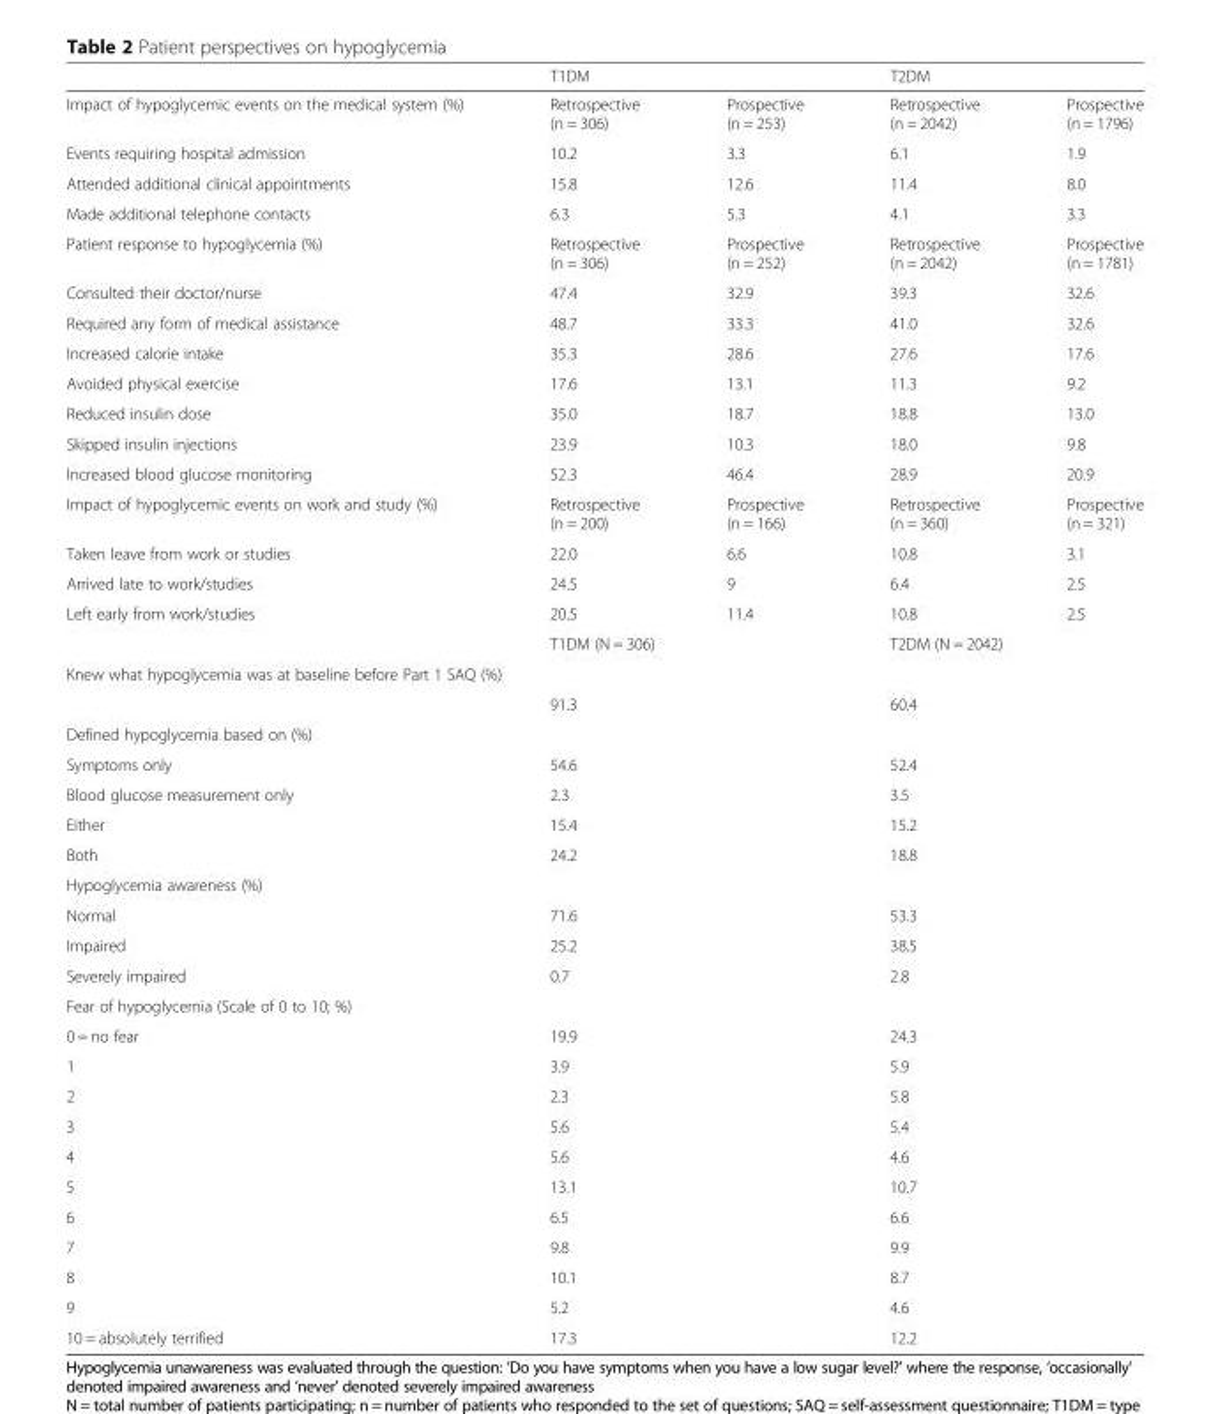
<table><thead><tr><td rowspan="2">Impact of hypoglycemic events on the medical system (%)</td><td colspan="2">T1DM</td><td colspan="2">T2DM</td></tr><tr><td>Retrospective (n = 306)</td><td>Prospective (n = 253)</td><td>Retrospective (n = 2042)</td><td>Prospective (n = 1796)</td></tr></thead><tbody><tr><td>Events requiring hospital admission</td><td>10.2</td><td>3.3</td><td>6.1</td><td>1.9</td></tr><tr><td>Attended additional clinical appointments</td><td>15.8</td><td>12.6</td><td>11.4</td><td>8.0</td></tr><tr><td>Made additional telephone contacts</td><td>6.3</td><td>5.3</td><td>4.1</td><td>3.3</td></tr><tr><td>Patient response to hypoglycemia (%)</td><td>Retrospective (n = 306)</td><td>Prospective (n = 252)</td><td>Retrospective (n = 2042)</td><td>Prospective (n = 1781)</td></tr><tr><td>Consulted their doctor/nurse</td><td>47.4</td><td>32.9</td><td>39.3</td><td>32.6</td></tr><tr><td>Required any form of medical assistance</td><td>48.7</td><td>33.3</td><td>41.0</td><td>32.6</td></tr><tr><td>Increased calorie intake</td><td>35.3</td><td>28.6</td><td>27.6</td><td>17.6</td></tr><tr><td>Avoided physical exercise</td><td>17.6</td><td>13.1</td><td>11.3</td><td>9.2</td></tr><tr><td>Reduced insulin dose</td><td>35.0</td><td>18.7</td><td>18.8</td><td>13.0</td></tr><tr><td>Skipped insulin injections</td><td>23.9</td><td>10.3</td><td>18.0</td><td>9.8</td></tr><tr><td>Increased blood glucose monitoring</td><td>52.3</td><td>46.4</td><td>28.9</td><td>20.9</td></tr><tr><td>Impact of hypoglycemic events on work and study (%)</td><td>Retrospective (n = 200)</td><td>Prospective (n = 166)</td><td>Retrospective (n = 360)</td><td>Prospective (n = 321)</td></tr><tr><td>Taken leave from work or studies</td><td>22.0</td><td>6.6</td><td>10.8</td><td>3.1</td></tr><tr><td>Arrived late to work/studies</td><td>24.5</td><td>9</td><td>6.4</td><td>2.5</td></tr><tr><td rowspan="2">Left early from work/studies</td><td>20.5</td><td>11.4</td><td>10.8</td><td>2.5</td></tr><tr><td colspan="2">T1DM (N = 306)</td><td colspan="2">T2DM (N = 2042)</td></tr><tr><td colspan="5">Knew what hypoglycemia was at baseline before Part 1 SAQ (%)</td></tr><tr><td></td><td colspan="2">91.3</td><td colspan="2">60.4</td></tr><tr><td colspan="5">Defined hypoglycemia based on (%)</td></tr><tr><td>Symptoms only</td><td colspan="2">54.6</td><td colspan="2">52.4</td></tr><tr><td>Blood glucose measurement only</td><td colspan="2">2.3</td><td colspan="2">3.5</td></tr><tr><td>Either</td><td colspan="2">15.4</td><td colspan="2">15.2</td></tr><tr><td>Both</td><td colspan="2">24.2</td><td colspan="2">18.8</td></tr><tr><td colspan="5">Hypoglycemia awareness (%)</td></tr><tr><td>Normal</td><td colspan="2">71.6</td><td colspan="2">53.3</td></tr><tr><td>Impaired</td><td colspan="2">25.2</td><td colspan="2">38.5</td></tr><tr><td>Severely impaired</td><td colspan="2">0.7</td><td colspan="2">2.8</td></tr><tr><td colspan="5">Fear of hypoglycemia (Scale of 0 to 10; %)</td></tr><tr><td>0 = no fear</td><td colspan="2">19.9</td><td colspan="2">24.3</td></tr><tr><td>1</td><td colspan="2">3.9</td><td colspan="2">5.9</td></tr><tr><td>2</td><td colspan="2">2.3</td><td colspan="2">5.8</td></tr><tr><td>3</td><td colspan="2">5.6</td><td colspan="2">5.4</td></tr><tr><td>4</td><td colspan="2">5.6</td><td colspan="2">4.6</td></tr><tr><td>5</td><td colspan="2">13.1</td><td colspan="2">10.7</td></tr><tr><td>6</td><td colspan="2">6.5</td><td colspan="2">6.6</td></tr><tr><td>7</td><td colspan="2">9.8</td><td colspan="2">9.9</td></tr><tr><td>8</td><td colspan="2">10.1</td><td colspan="2">8.7</td></tr><tr><td>9</td><td colspan="2">5.2</td><td colspan="2">4.6</td></tr><tr><td>10 = absolutely terrified</td><td colspan="2">17.3</td><td colspan="2">12.2</td></tr></tbody></table>